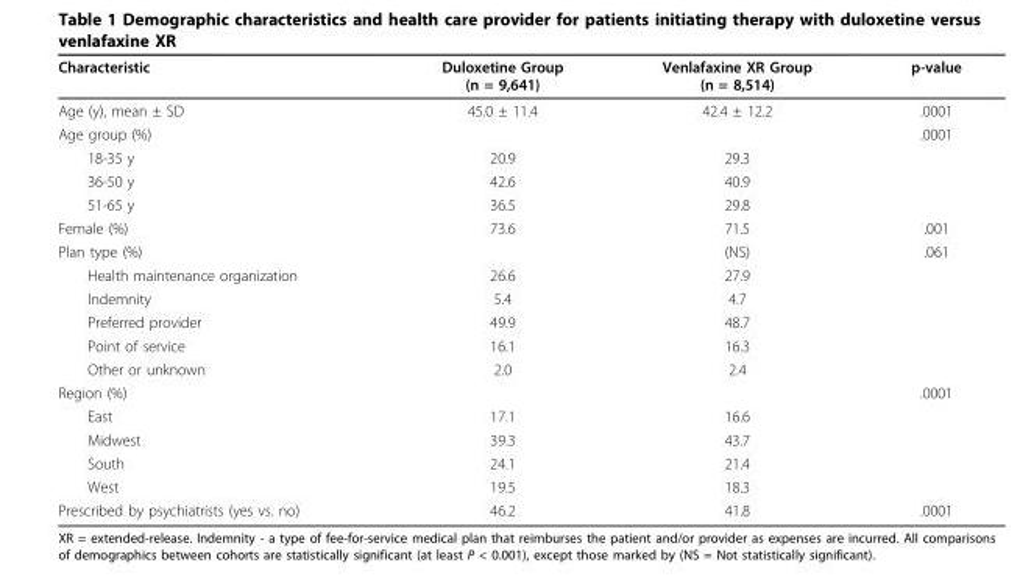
<table><thead><tr><td>Characteristic</td><td>Duloxetine Group (n = 9,641)</td><td>Venlafaxine XR Group (n = 8,514)</td><td>p-value</td></tr></thead><tbody><tr><td>Age (y), mean ± SD</td><td>45.0 ± 11.4</td><td>42.4 ± 12.2</td><td>.0001</td></tr><tr><td>Age group (%)</td><td></td><td></td><td>.0001</td></tr><tr><td>18-35 y</td><td>20.9</td><td>29.3</td><td></td></tr><tr><td>36-50 y</td><td>42.6</td><td>40.9</td><td></td></tr><tr><td>51-65 y</td><td>36.5</td><td>29.8</td><td></td></tr><tr><td>Female (%)</td><td>73.6</td><td>71.5</td><td>.001</td></tr><tr><td>Plan type (%)</td><td></td><td>(NS)</td><td>.061</td></tr><tr><td>Health maintenance organization</td><td>26.6</td><td>27.9</td><td></td></tr><tr><td>Indemnity</td><td>5.4</td><td>4.7</td><td></td></tr><tr><td>Preferred provider</td><td>49.9</td><td>48.7</td><td></td></tr><tr><td>Point of service</td><td>16.1</td><td>16.3</td><td></td></tr><tr><td>Other or unknown</td><td>2.0</td><td>2.4</td><td></td></tr><tr><td>Region (%)</td><td></td><td></td><td>.0001</td></tr><tr><td>East</td><td>17.1</td><td>16.6</td><td></td></tr><tr><td>Midwest</td><td>39.3</td><td>43.7</td><td></td></tr><tr><td>South</td><td>24.1</td><td>21.4</td><td></td></tr><tr><td>West</td><td>19.5</td><td>18.3</td><td></td></tr><tr><td>Prescribed by psychiatrists (yes vs. no)</td><td>46.2</td><td>41.8</td><td>.0001</td></tr></tbody></table>